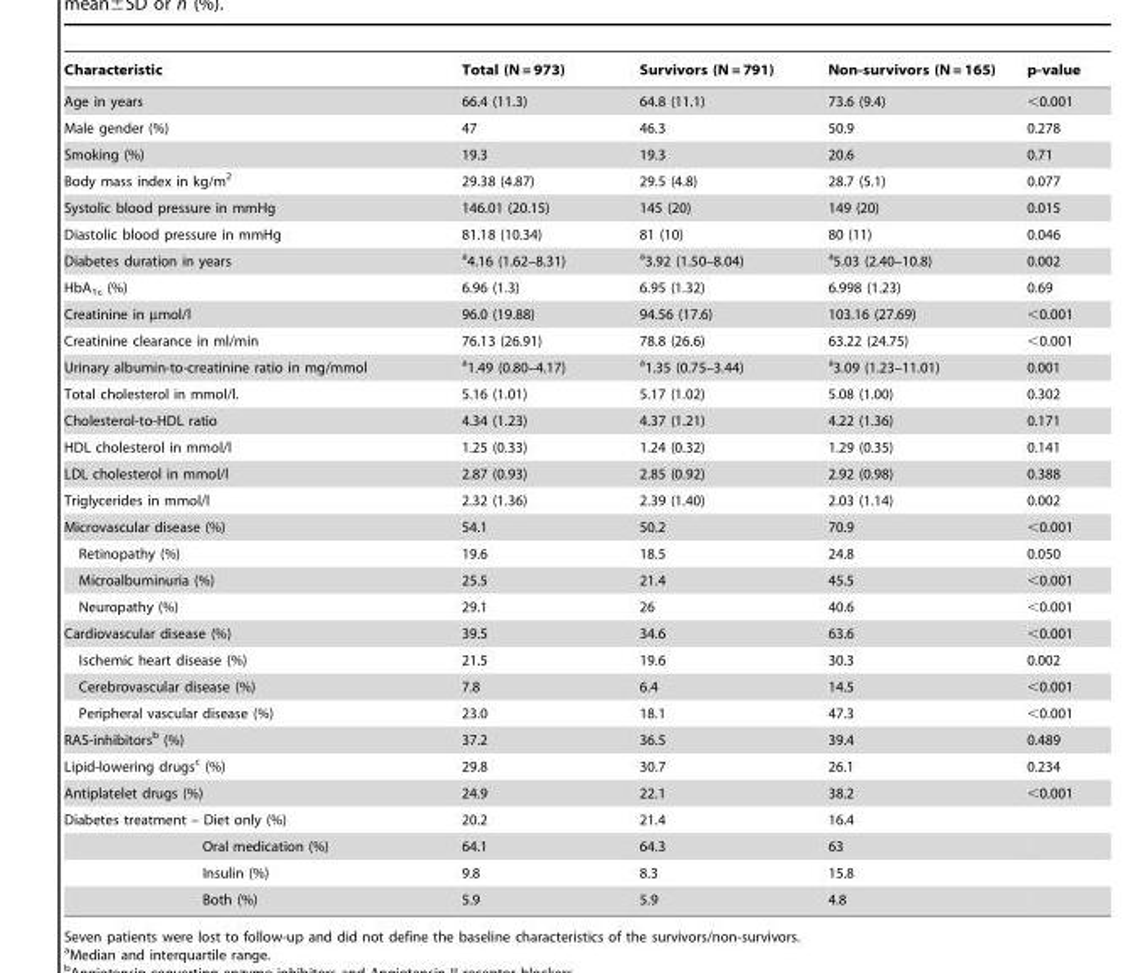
<table><thead><tr><td>Characteristic</td><td>Total (N = 973)</td><td>Survivors (N = 791)</td><td>Non-survivors (N = 165)</td><td>p-value</td></tr></thead><tbody><tr><td>Age in years</td><td>66.4 (11.3)</td><td>64.8 (11.1)</td><td>73.6 (9.4)</td><td>&lt;0.001</td></tr><tr><td>Male gender (%)</td><td>47</td><td>46.3</td><td>50.9</td><td>0.278</td></tr><tr><td>Smoking (%)</td><td>19.3</td><td>19.3</td><td>20.6</td><td>0.71</td></tr><tr><td>Body mass index in kg/m<sup>2</sup></td><td>29.38 (4.87)</td><td>29.5 (4.8)</td><td>28.7 (5.1)</td><td>0.077</td></tr><tr><td>Systolic blood pressure in mmHg</td><td>146.01 (20.15)</td><td>145 (20)</td><td>149 (20)</td><td>0.015</td></tr><tr><td>Diastolic blood pressure in mmHg</td><td>81.18 (10.34)</td><td>81 (10)</td><td>80 (11)</td><td>0.046</td></tr><tr><td>Diabetes duration in years</td><td>a4.16 (1.62–8.31)</td><td>a3.92 (1.50–8.04)</td><td>a5.03 (2.40–10.8)</td><td>0.002</td></tr><tr><td>HbA<sub>1c</sub> (%)</td><td>6.96 (1.3)</td><td>6.95 (1.32)</td><td>6.998 (1.23)</td><td>0.69</td></tr><tr><td>Creatinine in µmol/l</td><td>96.0 (19.88)</td><td>94.56 (17.6)</td><td>103.16 (27.69)</td><td>&lt;0.001</td></tr><tr><td>Creatinine clearance in ml/min</td><td>76.13 (26.91)</td><td>78.8 (26.6)</td><td>63.22 (24.75)</td><td>&lt;0.001</td></tr><tr><td>Urinary albumin-to-creatinine ratio in mg/mmol</td><td>a1.49 (0.80–4.17)</td><td>a1.35 (0.75–3.44)</td><td>a3.09 (1.23–11.01)</td><td>0.001</td></tr><tr><td>Total cholesterol in mmol/l.</td><td>5.16 (1.01)</td><td>5.17 (1.02)</td><td>5.08 (1.00)</td><td>0.302</td></tr><tr><td>Cholesterol-to-HDL ratio</td><td>4.34 (1.23)</td><td>4.37 (1.21)</td><td>4.22 (1.36)</td><td>0.171</td></tr><tr><td>HDL cholesterol in mmol/l</td><td>1.25 (0.33)</td><td>1.24 (0.32)</td><td>1.29 (0.35)</td><td>0.141</td></tr><tr><td>LDL cholesterol in mmol/l</td><td>2.87 (0.93)</td><td>2.85 (0.92)</td><td>2.92 (0.98)</td><td>0.388</td></tr><tr><td>Triglycerides in mmol/l</td><td>2.32 (1.36)</td><td>2.39 (1.40)</td><td>2.03 (1.14)</td><td>0.002</td></tr><tr><td>Microvascular disease (%)</td><td>54.1</td><td>50.2</td><td>70.9</td><td>&lt;0.001</td></tr><tr><td>Retinopathy (%)</td><td>19.6</td><td>18.5</td><td>24.8</td><td>0.050</td></tr><tr><td>Microalbuminuria (%)</td><td>25.5</td><td>21.4</td><td>45.5</td><td>&lt;0.001</td></tr><tr><td>Neuropathy (%)</td><td>29.1</td><td>26</td><td>40.6</td><td>&lt;0.001</td></tr><tr><td>Cardiovascular disease (%)</td><td>39.5</td><td>34.6</td><td>63.6</td><td>&lt;0.001</td></tr><tr><td>Ischemic heart disease (%)</td><td>21.5</td><td>19.6</td><td>30.3</td><td>0.002</td></tr><tr><td>Cerebrovascular disease (%)</td><td>7.8</td><td>6.4</td><td>14.5</td><td>&lt;0.001</td></tr><tr><td>Peripheral vascular disease (%)</td><td>23.0</td><td>18.1</td><td>47.3</td><td>&lt;0.001</td></tr><tr><td>RAS-inhibitors<sup>b</sup> (%)</td><td>37.2</td><td>36.5</td><td>39.4</td><td>0.489</td></tr><tr><td>Lipid-lowering drugs<sup>c</sup> (%)</td><td>29.8</td><td>30.7</td><td>26.1</td><td>0.234</td></tr><tr><td>Antiplatelet drugs (%)</td><td>24.9</td><td>22.1</td><td>38.2</td><td>&lt;0.001</td></tr><tr><td>Diabetes treatment – Diet only (%)</td><td>20.2</td><td>21.4</td><td>16.4</td><td></td></tr><tr><td>Oral medication (%)</td><td>64.1</td><td>64.3</td><td>63</td><td></td></tr><tr><td>Insulin (%)</td><td>9.8</td><td>8.3</td><td>15.8</td><td></td></tr><tr><td>Both (%)</td><td>5.9</td><td>5.9</td><td>4.8</td><td></td></tr></tbody></table>